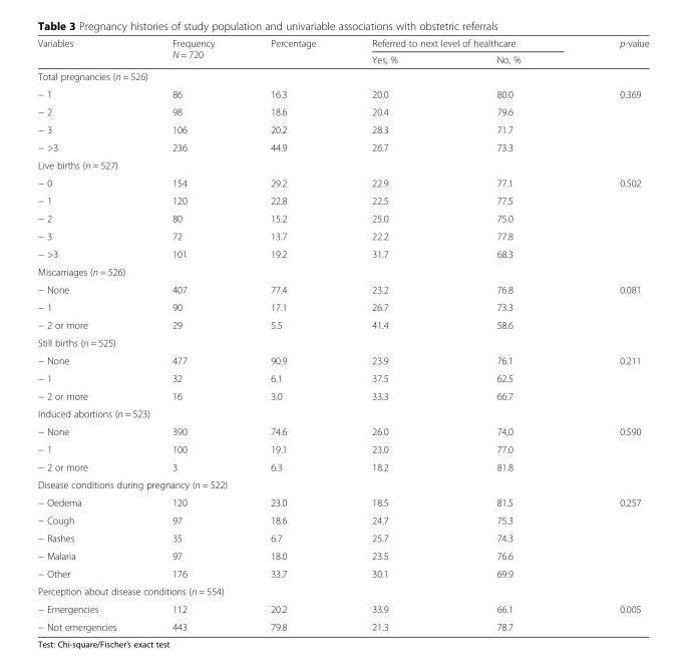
<table><thead><tr><td rowspan="2">Variables</td><td rowspan="2">Frequency N = 720</td><td rowspan="2">Percentage</td><td colspan="2">Referred to next level of healthcare</td><td rowspan="2">p-value</td></tr><tr><td>Yes, %</td><td>No, %</td></tr></thead><tbody><tr><td colspan="6">Total pregnancies (n = 526)</td></tr><tr><td>− 1</td><td>86</td><td>16.3</td><td>20.0</td><td>80.0</td><td rowspan="4">0.369</td></tr><tr><td>− 2</td><td>98</td><td>18.6</td><td>20.4</td><td>79.6</td></tr><tr><td>− 3</td><td>106</td><td>20.2</td><td>28.3</td><td>71.7</td></tr><tr><td>− &gt;3</td><td>236</td><td>44.9</td><td>26.7</td><td>73.3</td></tr><tr><td colspan="6">Live births (n = 527)</td></tr><tr><td>− 0</td><td>154</td><td>29.2</td><td>22.9</td><td>77.1</td><td rowspan="5">0.502</td></tr><tr><td>− 1</td><td>120</td><td>22.8</td><td>22.5</td><td>77.5</td></tr><tr><td>− 2</td><td>80</td><td>15.2</td><td>25.0</td><td>75.0</td></tr><tr><td>− 3</td><td>72</td><td>13.7</td><td>22.2</td><td>77.8</td></tr><tr><td>− &gt;3</td><td>101</td><td>19.2</td><td>31.7</td><td>68.3</td></tr><tr><td colspan="6">Miscarriages (n = 526)</td></tr><tr><td>− None</td><td>407</td><td>77.4</td><td>23.2</td><td>76.8</td><td rowspan="3">0.081</td></tr><tr><td>− 1</td><td>90</td><td>17.1</td><td>26.7</td><td>73.3</td></tr><tr><td>− 2 or more</td><td>29</td><td>5.5</td><td>41.4</td><td>58.6</td></tr><tr><td colspan="6">Still births (n = 525)</td></tr><tr><td>− None</td><td>477</td><td>90.9</td><td>23.9</td><td>76.1</td><td rowspan="3">0.211</td></tr><tr><td>− 1</td><td>32</td><td>6.1</td><td>37.5</td><td>62.5</td></tr><tr><td>− 2 or more</td><td>16</td><td>3.0</td><td>33.3</td><td>66.7</td></tr><tr><td colspan="6">Induced abortions (n = 523)</td></tr><tr><td>− None</td><td>390</td><td>74.6</td><td>26.0</td><td>74,0</td><td rowspan="3">0.590</td></tr><tr><td>− 1</td><td>100</td><td>19.1</td><td>23.0</td><td>77.0</td></tr><tr><td>− 2 or more</td><td>3</td><td>6.3</td><td>18.2</td><td>81.8</td></tr><tr><td colspan="6">Disease conditions during pregnancy (n = 522)</td></tr><tr><td>− Oedema</td><td>120</td><td>23.0</td><td>18.5</td><td>81.5</td><td rowspan="5">0.257</td></tr><tr><td>− Cough</td><td>97</td><td>18.6</td><td>24.7</td><td>75.3</td></tr><tr><td>− Rashes</td><td>35</td><td>6.7</td><td>25.7</td><td>74.3</td></tr><tr><td>− Malaria</td><td>97</td><td>18.0</td><td>23.5</td><td>76.6</td></tr><tr><td>− Other</td><td>176</td><td>33.7</td><td>30.1</td><td>69.9</td></tr><tr><td colspan="6">Perception about disease conditions (n = 554)</td></tr><tr><td>− Emergencies</td><td>112</td><td>20.2</td><td>33.9</td><td>66.1</td><td rowspan="2">0.005</td></tr><tr><td>− Not emergencies</td><td>443</td><td>79.8</td><td>21.3</td><td>78.7</td></tr></tbody></table>